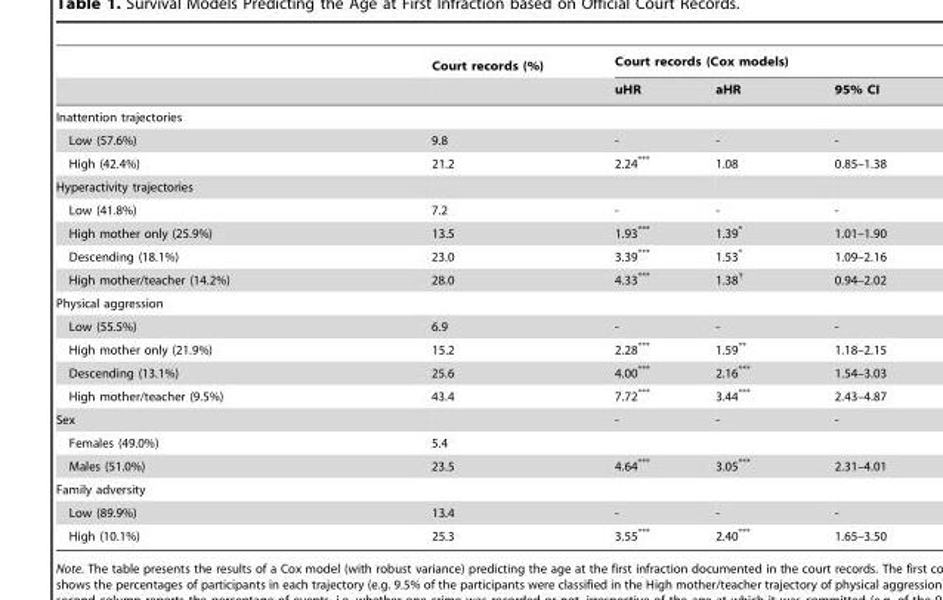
<table><thead><tr><td rowspan="2"></td><td rowspan="2">Court records (%)</td><td colspan="3">Court records (Cox models)</td></tr><tr><td>uHR</td><td>aHR</td><td>95% CI</td></tr></thead><tbody><tr><td colspan="5">Inattention trajectories</td></tr><tr><td>Low (57.6%)</td><td>9.8</td><td>-</td><td>-</td><td>-</td></tr><tr><td>High (42.4%)</td><td>21.2</td><td>2.24***</td><td>1.08</td><td>0.85–1.38</td></tr><tr><td colspan="5">Hyperactivity trajectories</td></tr><tr><td>Low (41.8%)</td><td>7.2</td><td>-</td><td>-</td><td>-</td></tr><tr><td>High mother only (25.9%)</td><td>13.5</td><td>1.93***</td><td>1.39*</td><td>1.01–1.90</td></tr><tr><td>Descending (18.1%)</td><td>23.0</td><td>3.39***</td><td>1.53*</td><td>1.09–2.16</td></tr><tr><td>High mother/teacher (14.2%)</td><td>28.0</td><td>4.33***</td><td>1.38<sup>†</sup></td><td>0.94–2.02</td></tr><tr><td colspan="5">Physical aggression</td></tr><tr><td>Low (55.5%)</td><td>6.9</td><td>-</td><td>-</td><td>-</td></tr><tr><td>High mother only (21.9%)</td><td>15.2</td><td>2.28***</td><td>1.59**</td><td>1.18–2.15</td></tr><tr><td>Descending (13.1%)</td><td>25.6</td><td>4.00***</td><td>2.16***</td><td>1.54–3.03</td></tr><tr><td>High mother/teacher (9.5%)</td><td>43.4</td><td>7.72***</td><td>3.44***</td><td>2.43–4.87</td></tr><tr><td>Sex</td><td></td><td>-</td><td>-</td><td>-</td></tr><tr><td>Females (49.0%)</td><td>5.4</td><td></td><td></td><td></td></tr><tr><td>Males (51.0%)</td><td>23.5</td><td>4.64***</td><td>3.05***</td><td>2.31–4.01</td></tr><tr><td colspan="5">Family adversity</td></tr><tr><td>Low (89.9%)</td><td>13.4</td><td>-</td><td>-</td><td>-</td></tr><tr><td>High (10.1%)</td><td>25.3</td><td>3.55***</td><td>2.40***</td><td>1.65–3.50</td></tr></tbody></table>